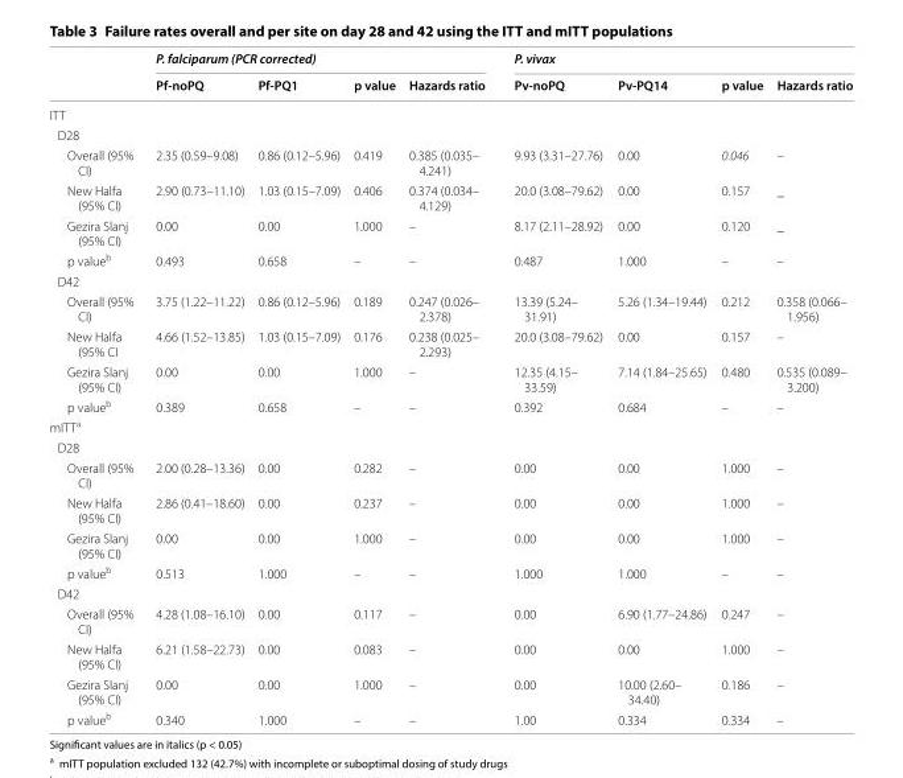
<table><thead><tr><td rowspan="2"></td><td colspan="4">P. falciparum (PCR corrected)</td><td colspan="4">P. vivax</td></tr><tr><td>Pf-noPQ</td><td>Pf-PQ1</td><td>p value</td><td>Hazards ratio</td><td>Pv-noPQ</td><td>Pv-PQ14</td><td>p value</td><td>Hazards ratio</td></tr></thead><tbody><tr><td colspan="9">ITT</td></tr><tr><td colspan="9">D28</td></tr><tr><td>Overall (95% CI)</td><td>2.35 (0.59–9.08)</td><td>0.86 (0.12–5.96)</td><td>0.419</td><td>0.385 (0.035– 4.241)</td><td>9.93 (3.31–27.76)</td><td>0.00</td><td>0.046</td><td>–</td></tr><tr><td>New Halfa (95% CI)</td><td>2.90 (0.73–11.10)</td><td>1.03 (0.15–7.09)</td><td>0.406</td><td>0.374 (0.034– 4.129)</td><td>20.0 (3.08–79.62)</td><td>0.00</td><td>0.157</td><td>_</td></tr><tr><td>Gezira Slanj (95% CI)</td><td>0.00</td><td>0.00</td><td>1.000</td><td>–</td><td>8.17 (2.11–28.92)</td><td>0.00</td><td>0.120</td><td>_</td></tr><tr><td>p value<sup>b</sup></td><td>0.493</td><td>0.658</td><td>–</td><td>–</td><td>0.487</td><td>1.000</td><td>–</td><td>–</td></tr><tr><td colspan="9">D42</td></tr><tr><td>Overall (95% CI)</td><td>3.75 (1.22–11.22)</td><td>0.86 (0.12–5.96)</td><td>0.189</td><td>0.247 (0.026– 2.378)</td><td>13.39 (5.24– 31.91)</td><td>5.26 (1.34–19.44)</td><td>0.212</td><td>0.358 (0.066– 1.956)</td></tr><tr><td>New Halfa (95% CI</td><td>4.66 (1.52–13.85)</td><td>1.03 (0.15–7.09)</td><td>0.176</td><td>0.238 (0.025– 2.293)</td><td>20.0 (3.08–79.62)</td><td>0.00</td><td>0.157</td><td>–</td></tr><tr><td>Gezira Slanj (95% CI)</td><td>0.00</td><td>0.00</td><td>1.000</td><td>–</td><td>12.35 (4.15– 33.59)</td><td>7.14 (1.84–25.65)</td><td>0.480</td><td>0.535 (0.089– 3.200)</td></tr><tr><td>p value<sup>b</sup></td><td>0.389</td><td>0.658</td><td>–</td><td>–</td><td>0.392</td><td>0.684</td><td>–</td><td>–</td></tr><tr><td colspan="9">mITT<sup>a</sup></td></tr><tr><td colspan="9">D28</td></tr><tr><td>Overall (95% CI)</td><td>2.00 (0.28–13.36)</td><td>0.00</td><td>0.282</td><td>–</td><td>0.00</td><td>0.00</td><td>1.000</td><td>–</td></tr><tr><td>New Halfa (95% CI)</td><td>2.86 (0.41–18.60)</td><td>0.00</td><td>0.237</td><td>–</td><td>0.00</td><td>0.00</td><td>1.000</td><td>–</td></tr><tr><td>Gezira Slanj (95% CI)</td><td>0.00</td><td>0.00</td><td>1.000</td><td>–</td><td>0.00</td><td>0.00</td><td>1.000</td><td>–</td></tr><tr><td>p value<sup>b</sup></td><td>0.513</td><td>1.000</td><td>–</td><td>–</td><td>1.000</td><td>1.000</td><td>–</td><td>–</td></tr><tr><td colspan="9">D42</td></tr><tr><td>Overall (95% CI)</td><td>4.28 (1.08–16.10)</td><td>0.00</td><td>0.117</td><td>–</td><td>0.00</td><td>6.90 (1.77–24.86)</td><td>0.247</td><td>–</td></tr><tr><td>New Halfa (95% CI)</td><td>6.21 (1.58–22.73)</td><td>0.00</td><td>0.083</td><td>–</td><td>0.00</td><td>0.00</td><td>1.000</td><td>–</td></tr><tr><td>Gezira Slanj (95% CI)</td><td>0.00</td><td>0.00</td><td>1.000</td><td>–</td><td>0.00</td><td>10.00 (2.60– 34.40)</td><td>0.186</td><td>–</td></tr><tr><td>p value<sup>b</sup></td><td>0.340</td><td>1.000</td><td>–</td><td>–</td><td>1.00</td><td>0.334</td><td>0.334</td><td>–</td></tr></tbody></table>